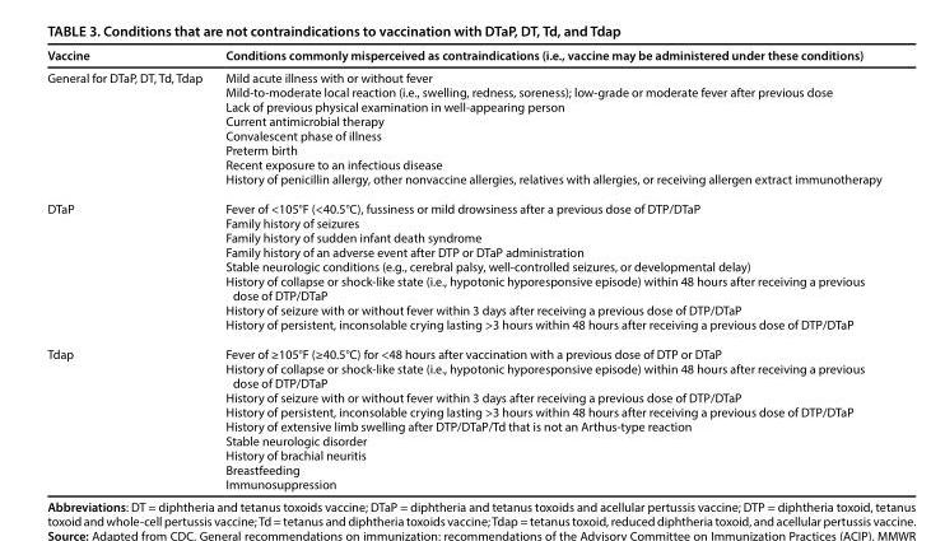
<table><thead><tr><td>Vaccine</td><td>Conditions commonly misperceived as contraindications (i.e., vaccine may be administered under these conditions)</td></tr></thead><tbody><tr><td>General for DTaP, DT, Td, Tdap</td><td>Mild acute illness with or without fever Mild-to-moderate local reaction (i.e., swelling, redness, soreness); low-grade or moderate fever after previous dose Lack of previous physical examination in well-appearing person Current antimicrobial therapy Convalescent phase of illness Preterm birth Recent exposure to an infectious disease History of penicillin allergy, other nonvaccine allergies, relatives with allergies, or receiving allergen extract immunotherapy</td></tr><tr><td>DTaP</td><td>Fever of &lt;105°F (&lt;40.5°C), fussiness or mild drowsiness after a previous dose of DTP/DTaP Family history of seizures Family history of sudden infant death syndrome Family history of an adverse event after DTP or DTaP administration Stable neurologic conditions (e.g., cerebral palsy, well-controlled seizures, or developmental delay) History of collapse or shock-like state (i.e., hypotonic hyporesponsive episode) within 48 hours after receiving a previous dose of DTP/DTaP History of seizure with or without fever within 3 days after receiving a previous dose of DTP/DTaP History of persistent, inconsolable crying lasting &gt;3 hours within 48 hours after receiving a previous dose of DTP/DTaP</td></tr><tr><td>Tdap</td><td>Fever of ≥105°F (≥40.5°C) for &lt;48 hours after vaccination with a previous dose of DTP or DTaP History of collapse or shock-like state (i.e., hypotonic hyporesponsive episode) within 48 hours after receiving a previous dose of DTP/DTaP History of seizure with or without fever within 3 days after receiving a previous dose of DTP/DTaP History of persistent, inconsolable crying lasting &gt;3 hours within 48 hours after receiving a previous dose of DTP/DTaP History of extensive limb swelling after DTP/DTaP/Td that is not an Arthus-type reaction Stable neurologic disorder History of brachial neuritis Breastfeeding Immunosuppression</td></tr></tbody></table>